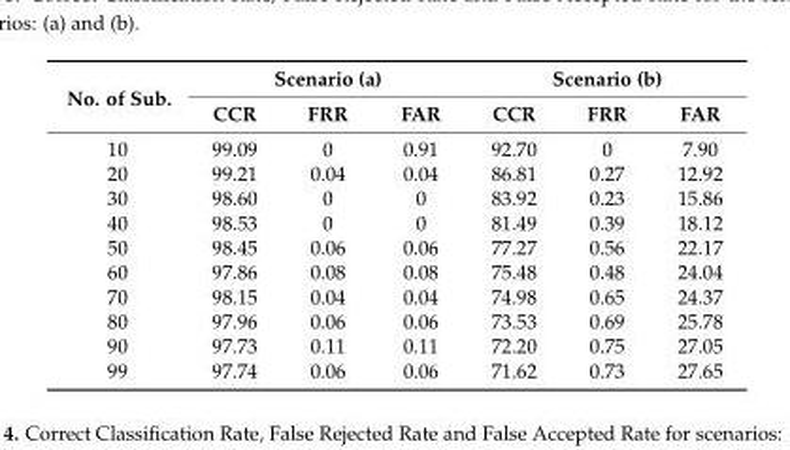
<table><thead><tr><td rowspan="2">No. of Sub.</td><td colspan="3">Scenario (a)</td><td colspan="3">Scenario (b)</td></tr><tr><td>CCR</td><td>FRR</td><td>FAR</td><td>CCR</td><td>FRR</td><td>FAR</td></tr></thead><tbody><tr><td>10</td><td>99.09</td><td>0</td><td>0.91</td><td>92.70</td><td>0</td><td>7.90</td></tr><tr><td>20</td><td>99.21</td><td>0.04</td><td>0.04</td><td>86.81</td><td>0.27</td><td>12.92</td></tr><tr><td>30</td><td>98.60</td><td>0</td><td>0</td><td>83.92</td><td>0.23</td><td>15.86</td></tr><tr><td>40</td><td>98.53</td><td>0</td><td>0</td><td>81.49</td><td>0.39</td><td>18.12</td></tr><tr><td>50</td><td>98.45</td><td>0.06</td><td>0.06</td><td>77.27</td><td>0.56</td><td>22.17</td></tr><tr><td>60</td><td>97.86</td><td>0.08</td><td>0.08</td><td>75.48</td><td>0.48</td><td>24.04</td></tr><tr><td>70</td><td>98.15</td><td>0.04</td><td>0.04</td><td>74.98</td><td>0.65</td><td>24.37</td></tr><tr><td>80</td><td>97.96</td><td>0.06</td><td>0.06</td><td>73.53</td><td>0.69</td><td>25.78</td></tr><tr><td>90</td><td>97.73</td><td>0.11</td><td>0.11</td><td>72.20</td><td>0.75</td><td>27.05</td></tr><tr><td>99</td><td>97.74</td><td>0.06</td><td>0.06</td><td>71.62</td><td>0.73</td><td>27.65</td></tr></tbody></table>